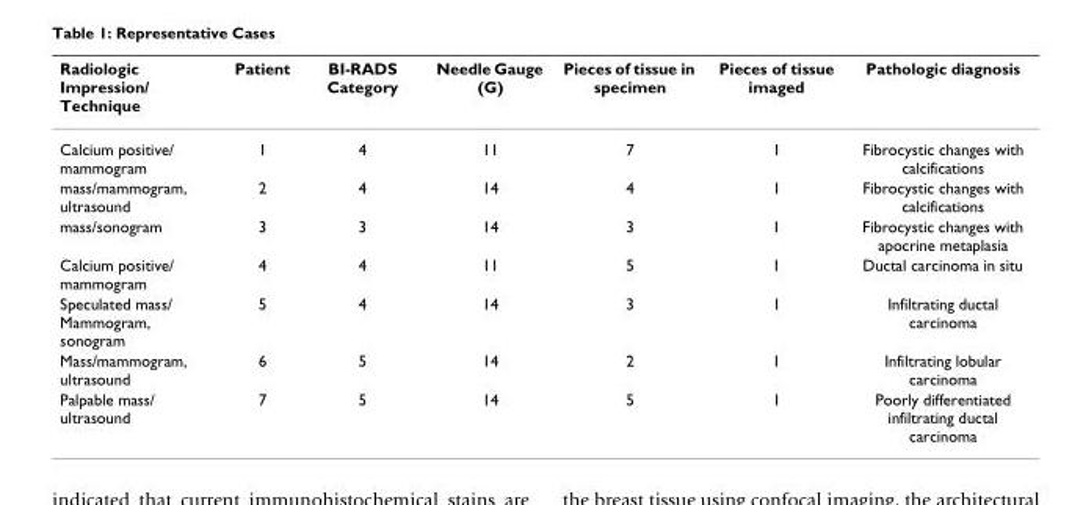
<table><thead><tr><td>Radiologic Impression/ Technique</td><td>Patient</td><td>BI-RADS Category</td><td>Needle Gauge (G)</td><td>Pieces of tissue in specimen</td><td>Pieces of tissue imaged</td><td>Pathologic diagnosis</td></tr></thead><tbody><tr><td>Calcium positive/ mammogram</td><td>1</td><td>4</td><td>11</td><td>7</td><td>1</td><td>Fibrocystic changes with calcifications</td></tr><tr><td>mass/mammogram, ultrasound</td><td>2</td><td>4</td><td>14</td><td>4</td><td>1</td><td>Fibrocystic changes with calcifications</td></tr><tr><td>mass/sonogram</td><td>3</td><td>3</td><td>14</td><td>3</td><td>1</td><td>Fibrocystic changes with apocrine metaplasia</td></tr><tr><td>Calcium positive/ mammogram</td><td>4</td><td>4</td><td>11</td><td>5</td><td>1</td><td>Ductal carcinoma in situ</td></tr><tr><td>Speculated mass/ Mammogram, sonogram</td><td>5</td><td>4</td><td>14</td><td>3</td><td>1</td><td>Infiltrating ductal carcinoma</td></tr><tr><td>Mass/mammogram, ultrasound</td><td>6</td><td>5</td><td>14</td><td>2</td><td>1</td><td>Infiltrating lobular carcinoma</td></tr><tr><td>Palpable mass/ ultrasound</td><td>7</td><td>5</td><td>14</td><td>5</td><td>1</td><td>Poorly differentiated infiltrating ductal carcinoma</td></tr></tbody></table>